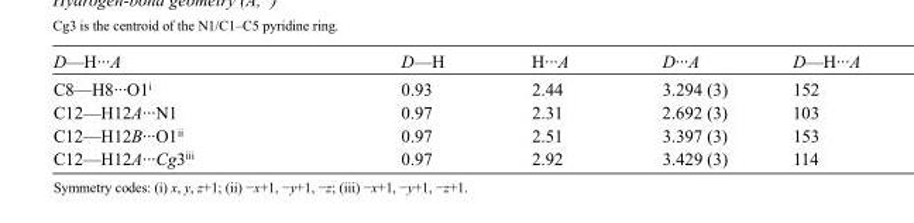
<table><tbody><tr><td>D—H···A</td><td>D—H</td><td>H···A</td><td>D···A</td><td>D—H···A</td></tr><tr><td>C8—H8···O1<sup>i</sup></td><td>0.93</td><td>2.44</td><td>3.294 (3)</td><td>152</td></tr><tr><td>C12—H12A···N1</td><td>0.97</td><td>2.31</td><td>2.692 (3)</td><td>103</td></tr><tr><td>C12—H12B···O1<sup>ii</sup></td><td>0.97</td><td>2.51</td><td>3.397 (3)</td><td>153</td></tr><tr><td>C12—H12A···Cg3<sup>iii</sup></td><td>0.97</td><td>2.92</td><td>3.429 (3)</td><td>114</td></tr></tbody></table>